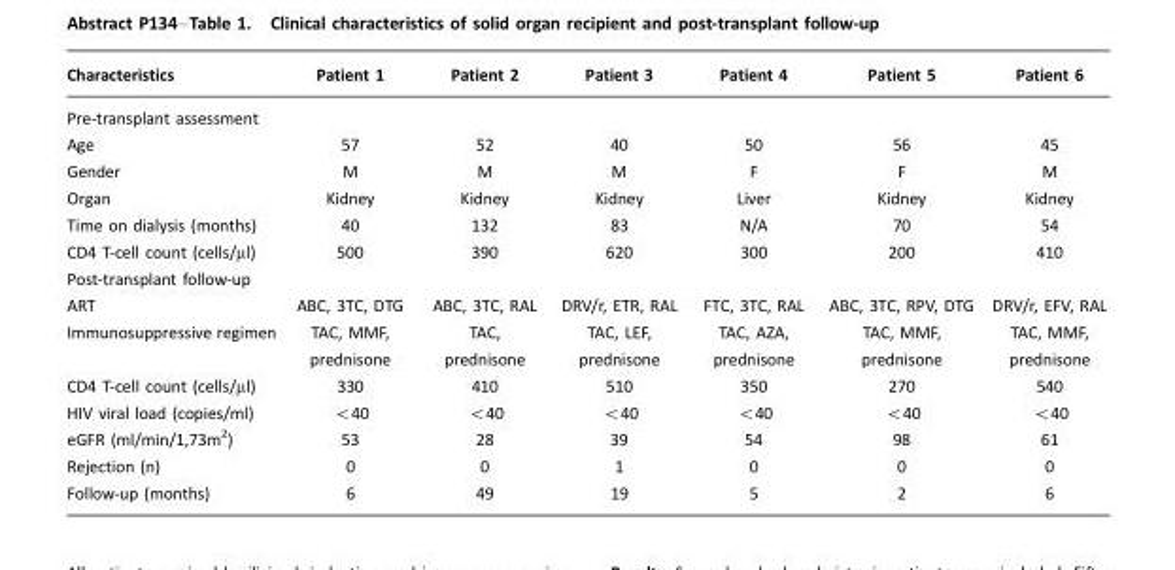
<table><thead><tr><td>Characteristics</td><td>Patient 1</td><td>Patient 2</td><td>Patient 3</td><td>Patient 4</td><td>Patient 5</td><td>Patient 6</td></tr></thead><tbody><tr><td colspan="7">Pre-transplant assessment</td></tr><tr><td>Age</td><td>57</td><td>52</td><td>40</td><td>50</td><td>56</td><td>45</td></tr><tr><td>Gender</td><td>M</td><td>M</td><td>M</td><td>F</td><td>F</td><td>M</td></tr><tr><td>Organ</td><td>Kidney</td><td>Kidney</td><td>Kidney</td><td>Liver</td><td>Kidney</td><td>Kidney</td></tr><tr><td>Time on dialysis (months)</td><td>40</td><td>132</td><td>83</td><td>N/A</td><td>70</td><td>54</td></tr><tr><td>CD4 T-cell count (cells/µl)</td><td>500</td><td>390</td><td>620</td><td>300</td><td>200</td><td>410</td></tr><tr><td colspan="7">Post-transplant follow-up</td></tr><tr><td>ART</td><td>ABC, 3TC, DTG</td><td>ABC, 3TC, RAL</td><td>DRV/r, ETR, RAL</td><td>FTC, 3TC, RAL</td><td>ABC, 3TC, RPV, DTG</td><td>DRV/r, EFV, RAL</td></tr><tr><td>Immunosuppressive regimen</td><td>TAC, MMF, prednisone</td><td>TAC, prednisone</td><td>TAC, LEF, prednisone</td><td>TAC, AZA, prednisone</td><td>TAC, MMF, prednisone</td><td>TAC, MMF, prednisone</td></tr><tr><td>CD4 T-cell count (cells/µl)</td><td>330</td><td>410</td><td>510</td><td>350</td><td>270</td><td>540</td></tr><tr><td>HIV viral load (copies/ml)</td><td>&lt;40</td><td>&lt;40</td><td>&lt;40</td><td>&lt;40</td><td>&lt;40</td><td>&lt;40</td></tr><tr><td>eGFR (ml/min/1,73m2)</td><td>53</td><td>28</td><td>39</td><td>54</td><td>98</td><td>61</td></tr><tr><td>Rejection (n)</td><td>0</td><td>0</td><td>1</td><td>0</td><td>0</td><td>0</td></tr><tr><td>Follow-up (months)</td><td>6</td><td>49</td><td>19</td><td>5</td><td>2</td><td>6</td></tr></tbody></table>